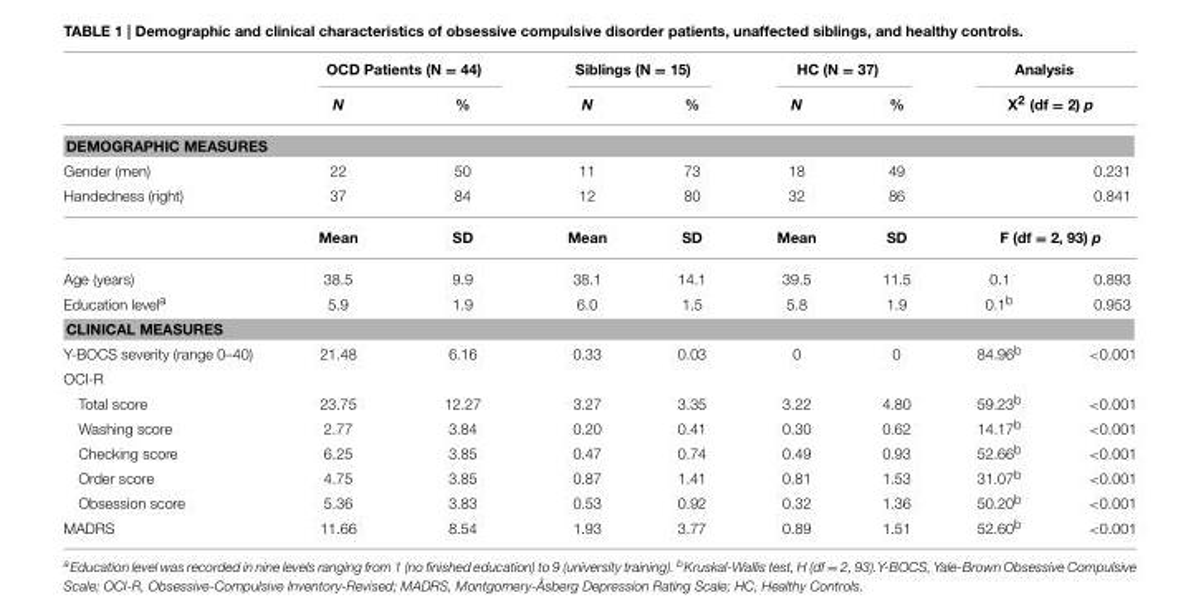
<table><thead><tr><td rowspan="2"></td><td colspan="2">OCD Patients (N = 44)</td><td colspan="2">Siblings (N = 15)</td><td colspan="2">HC (N = 37)</td><td rowspan="2" colspan="2">Analysis X<sup>2</sup> (df = 2) p</td></tr><tr><td>N</td><td>%</td><td>N</td><td>%</td><td>N</td><td>%</td></tr><tr><td colspan="9">DEMOGRAPHIC MEASURES</td></tr><tr><td>Gender (men)</td><td>22</td><td>50</td><td>11</td><td>73</td><td>18</td><td>49</td><td></td><td>0.231</td></tr></thead><tbody><tr><td rowspan="2">Handedness (right)</td><td>37</td><td>84</td><td>12</td><td>80</td><td>32</td><td>86</td><td></td><td>0.841</td></tr><tr><td>Mean</td><td>SD</td><td>Mean</td><td>SD</td><td>Mean</td><td>SD</td><td colspan="2">F (df = 2, 93) p</td></tr><tr><td>Age (years)</td><td>38.5</td><td>9.9</td><td>38.1</td><td>14.1</td><td>39.5</td><td>11.5</td><td>0.1</td><td>0.893</td></tr><tr><td>Education level<sup>a</sup></td><td>5.9</td><td>1.9</td><td>6.0</td><td>1.5</td><td>5.8</td><td>1.9</td><td>0.1<sup>b</sup></td><td>0.953</td></tr><tr><td colspan="9">CLINICAL MEASURES</td></tr><tr><td>Y-BOCS severity (range 0–40)</td><td>21.48</td><td>6.16</td><td>0.33</td><td>0.03</td><td>0</td><td>0</td><td>84.96<sup>b</sup></td><td>&lt;0.001</td></tr><tr><td colspan="9">OCI-R</td></tr><tr><td>Total score</td><td>23.75</td><td>12.27</td><td>3.27</td><td>3.35</td><td>3.22</td><td>4.80</td><td>59.23<sup>b</sup></td><td>&lt;0.001</td></tr><tr><td>Washing score</td><td>2.77</td><td>3.84</td><td>0.20</td><td>0.41</td><td>0.30</td><td>0.62</td><td>14.17<sup>b</sup></td><td>&lt;0.001</td></tr><tr><td>Checking score</td><td>6.25</td><td>3.85</td><td>0.47</td><td>0.74</td><td>0.49</td><td>0.93</td><td>52.66<sup>b</sup></td><td>&lt;0.001</td></tr><tr><td>Order score</td><td>4.75</td><td>3.85</td><td>0.87</td><td>1.41</td><td>0.81</td><td>1.53</td><td>31.07<sup>b</sup></td><td>&lt;0.001</td></tr><tr><td>Obsession score</td><td>5.36</td><td>3.83</td><td>0.53</td><td>0.92</td><td>0.32</td><td>1.36</td><td>50.20<sup>b</sup></td><td>&lt;0.001</td></tr><tr><td>MADRS</td><td>11.66</td><td>8.54</td><td>1.93</td><td>3.77</td><td>0.89</td><td>1.51</td><td>52.60<sup>b</sup></td><td>&lt;0.001</td></tr></tbody></table>